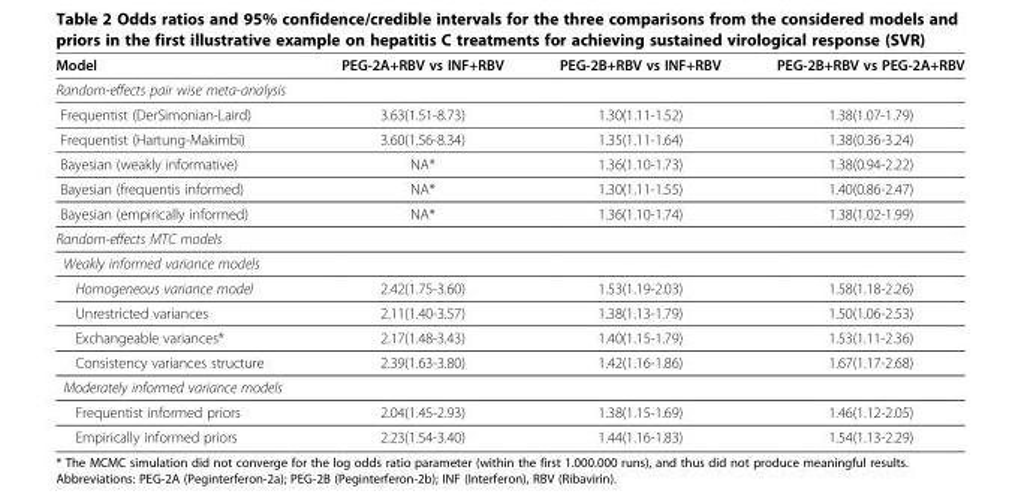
<table><thead><tr><td>Model</td><td>PEG-2A+RBV vs INF+RBV</td><td>PEG-2B+RBV vs INF+RBV</td><td>PEG-2B+RBV vs PEG-2A+RBV</td></tr></thead><tbody><tr><td colspan="4">Random-effects pair wise meta-analysis</td></tr><tr><td>Frequentist (DerSimonian-Laird)</td><td>3.63(1.51-8.73)</td><td>1.30(1.11-1.52)</td><td>1.38(1.07-1.79)</td></tr><tr><td>Frequentist (Hartung-Makimbi)</td><td>3.60(1.56-8.34)</td><td>1.35(1.11-1.64)</td><td>1.38(0.36-3.24)</td></tr><tr><td>Bayesian (weakly informative)</td><td>NA*</td><td>1.36(1.10-1.73)</td><td>1.38(0.94-2.22)</td></tr><tr><td>Bayesian (frequentis informed)</td><td>NA*</td><td>1.30(1.11-1.55)</td><td>1.40(0.86-2.47)</td></tr><tr><td>Bayesian (empirically informed)</td><td>NA*</td><td>1.36(1.10-1.74)</td><td>1.38(1.02-1.99)</td></tr><tr><td colspan="4">Random-effects MTC models</td></tr><tr><td colspan="4">Weakly informed variance models</td></tr><tr><td>Homogeneous variance model</td><td>2.42(1.75-3.60)</td><td>1.53(1.19-2.03)</td><td>1.58(1.18-2.26)</td></tr><tr><td>Unrestricted variances</td><td>2.11(1.40-3.57)</td><td>1.38(1.13-1.79)</td><td>1.50(1.06-2.53)</td></tr><tr><td>Exchangeable variances*</td><td>2.17(1.48-3.43)</td><td>1.40(1.15-1.79)</td><td>1.53(1.11-2.36)</td></tr><tr><td>Consistency variances structure</td><td>2.39(1.63-3.80)</td><td>1.42(1.16-1.86)</td><td>1.67(1.17-2.68)</td></tr><tr><td colspan="4">Moderately informed variance models</td></tr><tr><td>Frequentist informed priors</td><td>2.04(1.45-2.93)</td><td>1.38(1.15-1.69)</td><td>1.46(1.12-2.05)</td></tr><tr><td>Empirically informed priors</td><td>2.23(1.54-3.40)</td><td>1.44(1.16-1.83)</td><td>1.54(1.13-2.29)</td></tr></tbody></table>